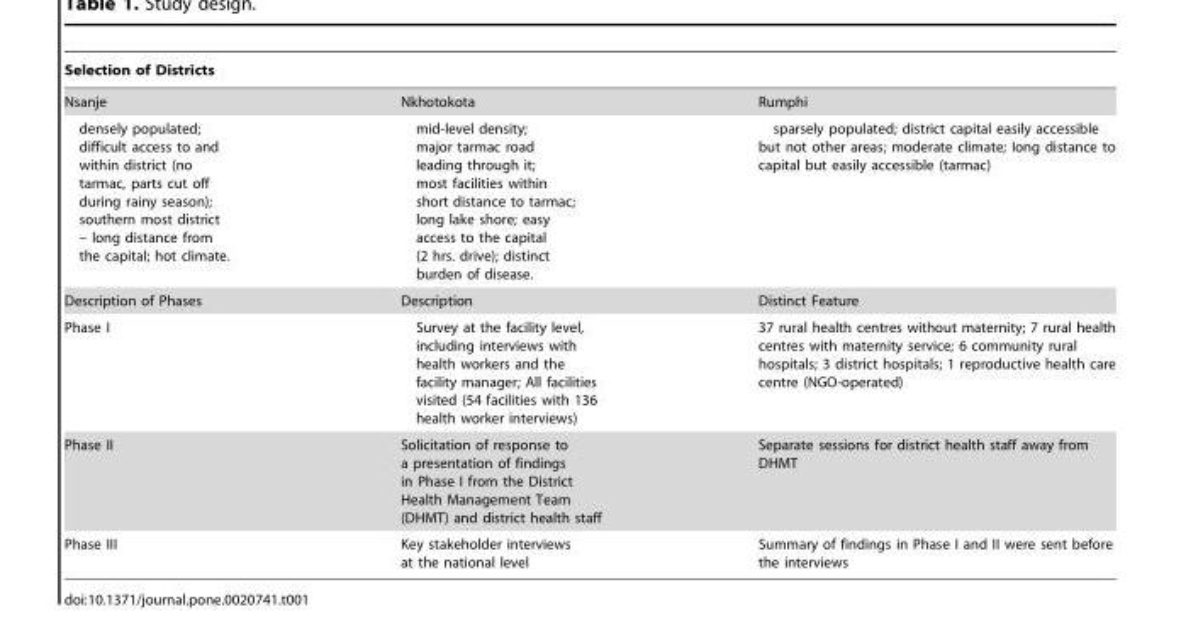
<table><thead><tr><td>Selection of Districts</td><td></td><td></td></tr></thead><tbody><tr><td>Nsanje</td><td>Nkhotokota</td><td>Rumphi</td></tr><tr><td>densely populated; difficult access to and within district (no tarmac, parts cut off during rainy season); southern most district – long distance from the capital; hot climate.</td><td>mid-level density; major tarmac road leading through it; most facilities within short distance to tarmac; long lake shore; easy access to the capital (2 hrs. drive); distinct burden of disease.</td><td>sparsely populated; district capital easily accessible but not other areas; moderate climate; Iong distance to capital but easily accessible (tarmac)</td></tr><tr><td>Description of Phases</td><td>Description</td><td>Distinct Feature</td></tr><tr><td>Phase I</td><td>Survey at the facility level, including interviews with health workers and the facility manager; All facilities visited (54 facilities with 136 health worker interviews)</td><td>37 rural health centres without maternity; 7 rural health centres with maternity service; 6 community rural hospitals; 3 district hospitals; 1 reproductive health care centre (NGO-operated)</td></tr><tr><td>Phase II</td><td>Solicitation of response to a presentation of findings in Phase I from the District Health Management Team (DHMT) and district health staff</td><td>Separate sessions for district health staff away from DHMT</td></tr><tr><td>Phase III</td><td>Key stakeholder interviews at the national level</td><td>Summary of findings in Phase I and II were sent before the interviews</td></tr></tbody></table>